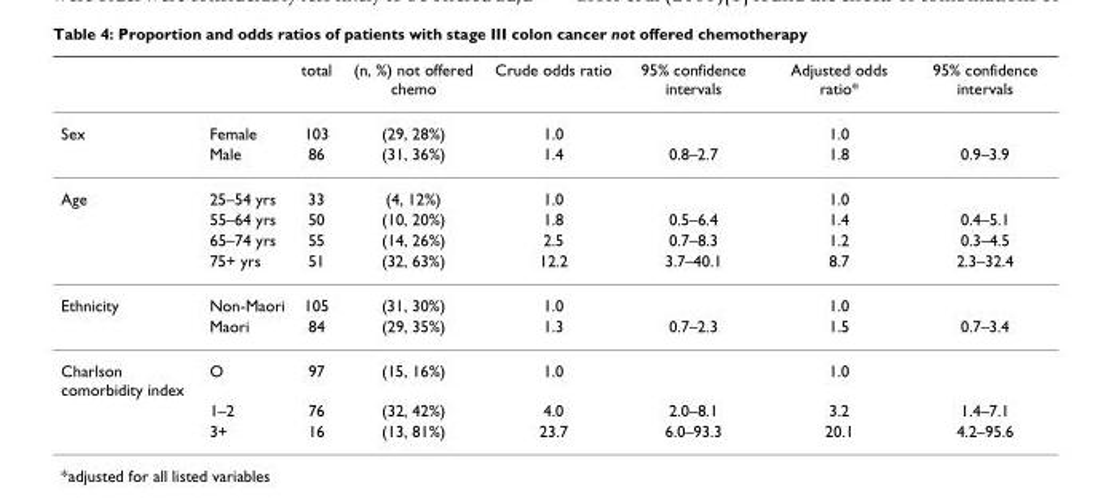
<table><thead><tr><td></td><td></td><td>total</td><td>(n, %) not offered chemo</td><td>Crude odds ratio</td><td>95% confidence intervals</td><td>Adjusted odds ratio*</td><td>95% confidence intervals</td></tr></thead><tbody><tr><td rowspan="2">Sex</td><td>Female</td><td>103</td><td>(29, 28%)</td><td>1.0</td><td></td><td>1.0</td><td></td></tr><tr><td>Male</td><td>86</td><td>(31, 36%)</td><td>1.4</td><td>0.8–2.7</td><td>1.8</td><td>0.9–3.9</td></tr><tr><td rowspan="4">Age</td><td>25–54 yrs</td><td>33</td><td>(4, 12%)</td><td>1.0</td><td></td><td>1.0</td><td></td></tr><tr><td>55–64 yrs</td><td>50</td><td>(10, 20%)</td><td>1.8</td><td>0.5–6.4</td><td>1.4</td><td>0.4–5.1</td></tr><tr><td>65–74 yrs</td><td>55</td><td>(14, 26%)</td><td>2.5</td><td>0.7–8.3</td><td>1.2</td><td>0.3–4.5</td></tr><tr><td>75+ yrs</td><td>51</td><td>(32, 63%)</td><td>12.2</td><td>3.7–40.1</td><td>8.7</td><td>2.3–32.4</td></tr><tr><td rowspan="2">Ethnicity</td><td>Non-Maori</td><td>105</td><td>(31, 30%)</td><td>1.0</td><td></td><td>1.0</td><td></td></tr><tr><td>Maori</td><td>84</td><td>(29, 35%)</td><td>1.3</td><td>0.7–2.3</td><td>1.5</td><td>0.7–3.4</td></tr><tr><td rowspan="3">Charlson comorbidity index</td><td>O</td><td>97</td><td>(15, 16%)</td><td>1.0</td><td></td><td>1.0</td><td></td></tr><tr><td>1–2</td><td>76</td><td>(32, 42%)</td><td>4.0</td><td>2.0–8.1</td><td>3.2</td><td>1.4–7.1</td></tr><tr><td>3+</td><td>16</td><td>(13, 81%)</td><td>23.7</td><td>6.0–93.3</td><td>20.1</td><td>4.2–95.6</td></tr></tbody></table>